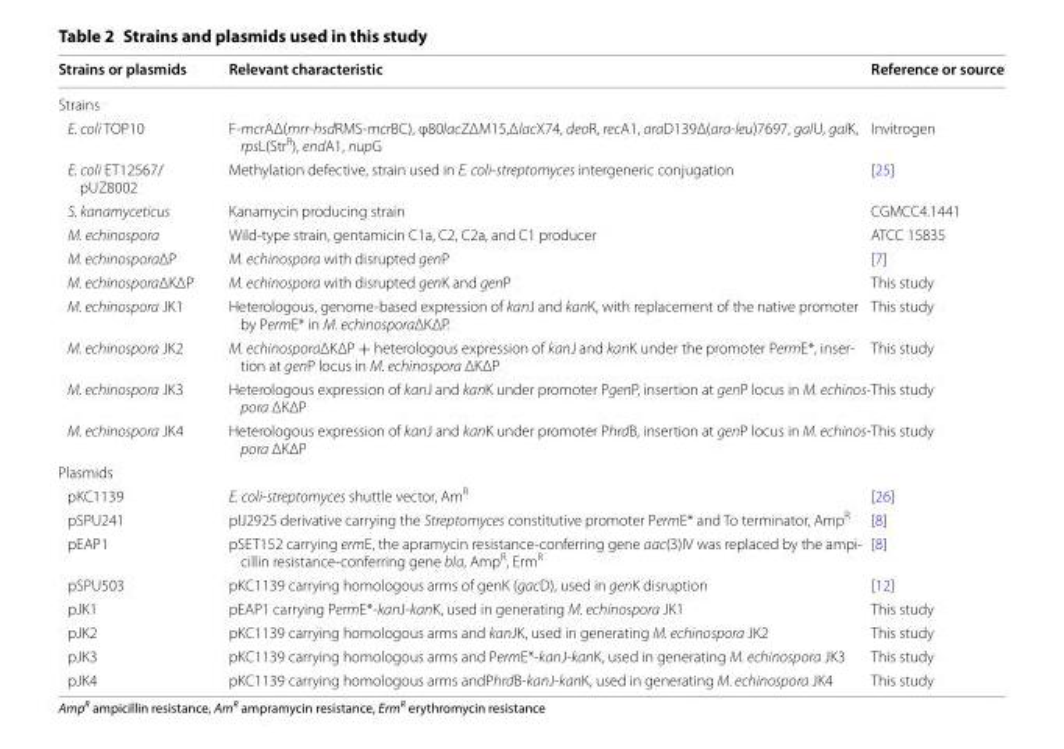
<table><thead><tr><td>Strains or plasmids</td><td>Relevant characteristic</td><td>Reference or source</td></tr></thead><tbody><tr><td colspan="3">Strains</td></tr><tr><td>E. coli TOP10</td><td>F-mcrAΔ(mrr-hsdRMS-mcrBC), φ80lacZΔM15,ΔlacX74, deoR, recA1, araD139Δ(ara-leu)7697, galU, galK, rpsL(Str<sup>R</sup>), endA1, nupG</td><td>Invitrogen</td></tr><tr><td>E. coli ET12567/ pUZ8002</td><td>Methylation defective, strain used in E. coli-streptomyces intergeneric conjugation</td><td>[25]</td></tr><tr><td>S. kanamyceticus</td><td>Kanamycin producing strain</td><td>CGMCC4.1441</td></tr><tr><td>M. echinospora</td><td>Wild-type strain, gentamicin C1a, C2, C2a, and C1 producer</td><td>ATCC 15835</td></tr><tr><td>M. echinosporaΔP</td><td>M. echinospora with disrupted genP</td><td>[7]</td></tr><tr><td>M. echinosporaΔKΔP</td><td>M. echinospora with disrupted genK and genP</td><td>This study</td></tr><tr><td>M. echinospora JK1</td><td>Heterologous, genome-based expression of kanJ and kanK, with replacement of the native promoter by PermE* in M. echinosporaΔKΔP.</td><td>This study</td></tr><tr><td>M. echinospora JK2</td><td>M. echinosporaΔKΔP + heterologous expression of kanJ and kanK under the promoter PermE*, inser- tion at genP locus in M. echinospora ΔKΔP</td><td>This study</td></tr><tr><td>M. echinospora JK3</td><td>Heterologous expression of kanJ and kanK under promoter PgenP, insertion at genP locus in M. echinos- pora ΔKΔP</td><td>This study</td></tr><tr><td>M. echinospora JK4</td><td>Heterologous expression of kanJ and kanK under promoter PhrdB, insertion at genP locus in M. echinos- pora ΔKΔP</td><td>This study</td></tr><tr><td colspan="3">Plasmids</td></tr><tr><td>pKC1139</td><td>E. coli-streptomyces shuttle vector, Am<sup>R</sup></td><td>[26]</td></tr><tr><td>pSPU241</td><td>pIJ2925 derivative carrying the Streptomyces constitutive promoter PermE* and To terminator, Amp<sup>R</sup></td><td>[8]</td></tr><tr><td>pEAP1</td><td>pSET152 carrying ermE, the apramycin resistance-conferring gene aac(3)IV was replaced by the ampi- cillin resistance-conferring gene bla, AmpR, ErmR</td><td>[8]</td></tr><tr><td>pSPU503</td><td>pKC1139 carrying homologous arms of genK (gacD), used in genK disruption</td><td>[12]</td></tr><tr><td>pJK1</td><td>pEAP1 carrying PermE*-kanJ-kanK, used in generating M. echinospora JK1</td><td>This study</td></tr><tr><td>pJK2</td><td>pKC1139 carrying homologous arms and kanJK, used in generating M. echinospora JK2</td><td>This study</td></tr><tr><td>pJK3</td><td>pKC1139 carrying homologous arms and PermE*-kanJ-kanK, used in generating M. echinospora JK3</td><td>This study</td></tr><tr><td>pJK4</td><td>pKC1139 carrying homologous arms andPhrdB-kanJ-kanK, used in generating M. echinospora JK4</td><td>This study</td></tr></tbody></table>